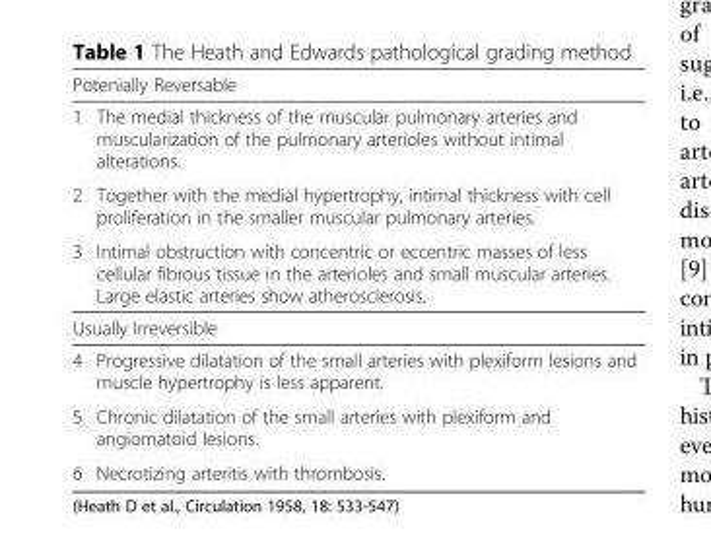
<table><thead><tr><td colspan="2">Potenially Reversable</td></tr><tr><td>1</td><td>The medial thickness of the muscular pulmonary arteries and muscularization of the pulmonary arterioles without intimal alterations.</td></tr></thead><tbody><tr><td>2</td><td>Together with the medial hypertrophy, intimal thickness with cell proliferation in the smaller muscular pulmonary arteries.</td></tr><tr><td>3</td><td>Intimal obstruction with concentric or eccentric masses of less cellular fibrous tissue in the arterioles and small muscular arteries. Large elastic arteries show atherosclerosis.</td></tr><tr><td colspan="2">Usually Irreversible</td></tr><tr><td>4</td><td>Progressive dilatation of the small arteries with plexiform lesions and muscle hypertrophy is less apparent.</td></tr><tr><td>5</td><td>Chronic dilatation of the small arteries with plexiform and angiomatoid lesions.</td></tr><tr><td>6</td><td>Necrotizing arteritis with thrombosis.</td></tr></tbody></table>